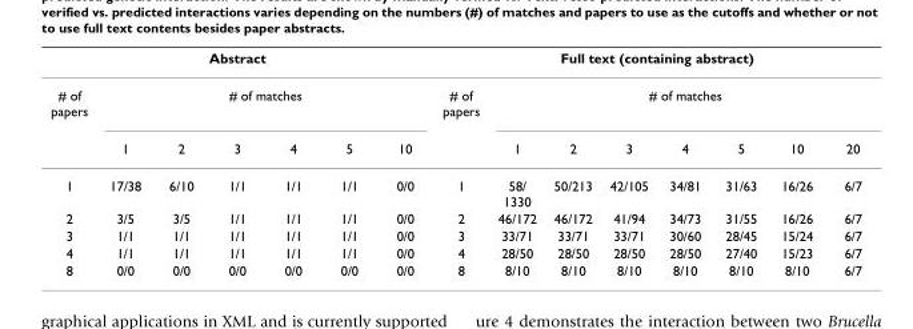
<table><thead><tr><td colspan="7">Abstract</td><td colspan="8">Full text (containing abstract)</td></tr><tr><td rowspan="2"># of papers</td><td colspan="6"># of matches</td><td rowspan="2"># of papers</td><td colspan="7"># of matches</td></tr><tr><td>1</td><td>2</td><td>3</td><td>4</td><td>5</td><td>10</td><td>1</td><td>2</td><td>3</td><td>4</td><td>5</td><td>10</td><td>20</td></tr></thead><tbody><tr><td>1</td><td>17/38</td><td>6/10</td><td>1/1</td><td>1/1</td><td>1/1</td><td>0/0</td><td>1</td><td>58/ 1330</td><td>50/213</td><td>42/105</td><td>34/81</td><td>31/63</td><td>16/26</td><td>6/7</td></tr><tr><td>2</td><td>3/5</td><td>3/5</td><td>1/1</td><td>1/1</td><td>1/1</td><td>0/0</td><td>2</td><td>46/172</td><td>46/172</td><td>41/94</td><td>34/73</td><td>31/55</td><td>16/26</td><td>6/7</td></tr><tr><td>3</td><td>1/1</td><td>1/1</td><td>1/1</td><td>1/1</td><td>1/1</td><td>0/0</td><td>3</td><td>33/71</td><td>33/71</td><td>33/71</td><td>30/60</td><td>28/45</td><td>15/24</td><td>6/7</td></tr><tr><td>4</td><td>1/1</td><td>1/1</td><td>1/1</td><td>1/1</td><td>1/1</td><td>0/0</td><td>4</td><td>28/50</td><td>28/50</td><td>28/50</td><td>28/50</td><td>27/40</td><td>15/23</td><td>6/7</td></tr><tr><td>8</td><td>0/0</td><td>0/0</td><td>0/0</td><td>0/0</td><td>0/0</td><td>0/0</td><td>8</td><td>8/10</td><td>8/10</td><td>8/10</td><td>8/10</td><td>8/10</td><td>8/10</td><td>6/7</td></tr></tbody></table>